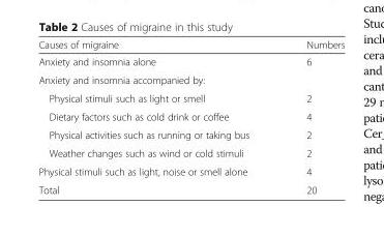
<table><thead><tr><td>Causes of migraine</td><td>Numbers</td></tr></thead><tbody><tr><td>Anxiety and insomnia alone</td><td>6</td></tr><tr><td colspan="2">Anxiety and insomnia accompanied by:</td></tr><tr><td>Physical stimuli such as light or smell</td><td>2</td></tr><tr><td>Dietary factors such as cold drink or coffee</td><td>4</td></tr><tr><td>Physical activities such as running or taking bus</td><td>2</td></tr><tr><td>Weather changes such as wind or cold stimuli</td><td>2</td></tr><tr><td>Physical stimuli such as light, noise or smell alone</td><td>4</td></tr><tr><td>Total</td><td>20</td></tr></tbody></table>